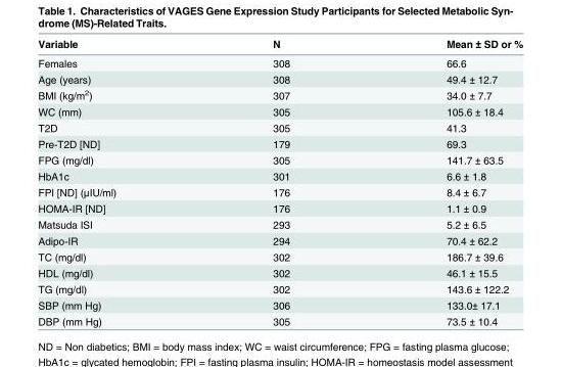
<table><thead><tr><td>Variable</td><td>N</td><td>Mean ± SD or %</td></tr></thead><tbody><tr><td>Females</td><td>308</td><td>66.6</td></tr><tr><td>Age (years)</td><td>308</td><td>49.4 ± 12.7</td></tr><tr><td>BMI (kg/m<sup>2</sup>)</td><td>307</td><td>34.0 ± 7.7</td></tr><tr><td>WC (mm)</td><td>305</td><td>105.6 ± 18.4</td></tr><tr><td>T2D</td><td>305</td><td>41.3</td></tr><tr><td>Pre-T2D [ND]</td><td>179</td><td>69.3</td></tr><tr><td>FPG (mg/dl)</td><td>305</td><td>141.7 ± 63.5</td></tr><tr><td>HbA1c</td><td>301</td><td>6.6 ± 1.8</td></tr><tr><td>FPI [ND] (μIU/ml)</td><td>176</td><td>8.4 ± 6.7</td></tr><tr><td>HOMA-IR [ND]</td><td>176</td><td>1.1 ± 0.9</td></tr><tr><td>Matsuda ISI</td><td>293</td><td>5.2 ± 6.5</td></tr><tr><td>Adipo-IR</td><td>294</td><td>70.4 ± 62.2</td></tr><tr><td>TC (mg/dl)</td><td>302</td><td>186.7 ± 39.6</td></tr><tr><td>HDL (mg/dl)</td><td>302</td><td>46.1 ± 15.5</td></tr><tr><td>TG (mg/dl)</td><td>302</td><td>143.6 ± 122.2</td></tr><tr><td>SBP (mm Hg)</td><td>306</td><td>133.0± 17.1</td></tr><tr><td>DBP (mm Hg)</td><td>305</td><td>73.5 ± 10.4</td></tr></tbody></table>